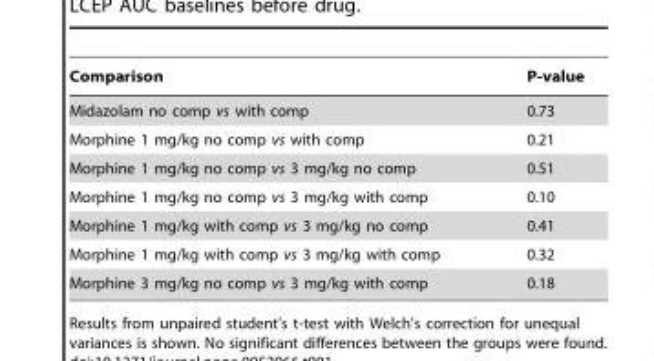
<table><thead><tr><td>Comparison</td><td>P-value</td></tr></thead><tbody><tr><td>Midazolam no comp vs with comp</td><td>0.73</td></tr><tr><td>Morphine 1 mg/kg no comp vs with comp</td><td>0.21</td></tr><tr><td>Morphine 1 mg/kg no comp vs 3 mg/kg no comp</td><td>0.51</td></tr><tr><td>Morphine 1 mg/kg no comp vs 3 mg/kg with comp</td><td>0.10</td></tr><tr><td>Morphine 1 mg/kg with comp vs 3 mg/kg no comp</td><td>0.41</td></tr><tr><td>Morphine 1 mg/kg with comp vs 3 mg/kg with comp</td><td>0.32</td></tr><tr><td>Morphine 3 mg/kg no comp vs 3 mg/kg with comp</td><td>0.18</td></tr></tbody></table>